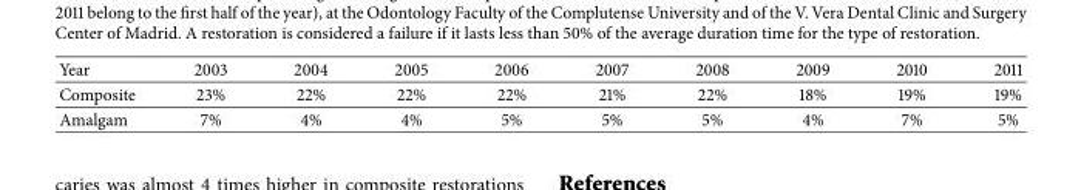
<table><tbody><tr><td>Year</td><td>2003</td><td>2004</td><td>2005</td><td>2006</td><td>2007</td><td>2008</td><td>2009</td><td>2010</td><td>2011</td></tr><tr><td>Composite</td><td>23%</td><td>22%</td><td>22%</td><td>22%</td><td>21%</td><td>22%</td><td>18%</td><td>19%</td><td>19%</td></tr><tr><td>Amalgam</td><td>7%</td><td>4%</td><td>4%</td><td>5%</td><td>5%</td><td>5%</td><td>4%</td><td>7%</td><td>5%</td></tr></tbody></table>